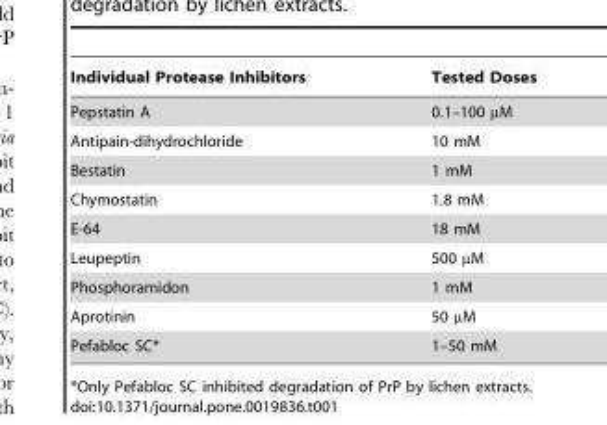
<table><thead><tr><td>Individual Protease Inhibitors</td><td>Tested Doses</td></tr></thead><tbody><tr><td>Pepstatin A</td><td>0.1–100 µM</td></tr><tr><td>Antipain-dihydrochloride</td><td>10 mM</td></tr><tr><td>Bestatin</td><td>1 mM</td></tr><tr><td>Chymostatin</td><td>1.8 mM</td></tr><tr><td>E-64</td><td>18 mM</td></tr><tr><td>Leupeptin</td><td>500 µM</td></tr><tr><td>Phosphoramidon</td><td>1 mM</td></tr><tr><td>Aprotinin</td><td>50 µM</td></tr><tr><td>Pefabloc SC*</td><td>1–50 mM</td></tr></tbody></table>